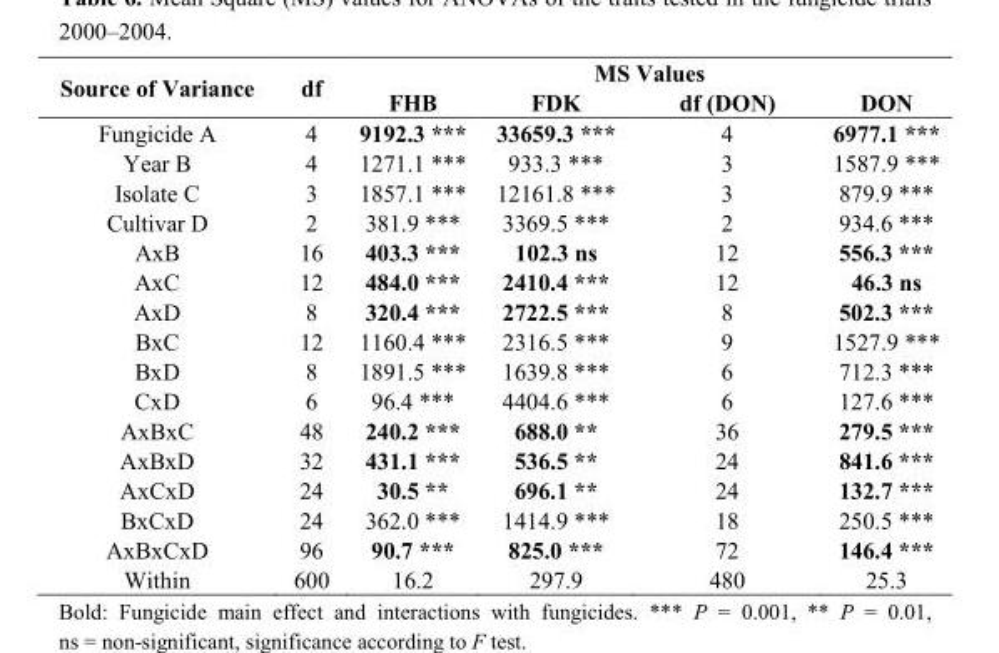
<table><thead><tr><td rowspan="2">Source of Variance</td><td rowspan="2">df</td><td colspan="4">MS Values</td></tr><tr><td>FHB</td><td>FDK</td><td>df (DON)</td><td>DON</td></tr></thead><tbody><tr><td>Fungicide A</td><td>4</td><td>9192.3 ***</td><td>33659.3 ***</td><td>4</td><td>6977.1 ***</td></tr><tr><td>Year B</td><td>4</td><td>1271.1 ***</td><td>933.3 ***</td><td>3</td><td>1587.9 ***</td></tr><tr><td>Isolate C</td><td>3</td><td>1857.1 ***</td><td>12161.8 ***</td><td>3</td><td>879.9 ***</td></tr><tr><td>Cultivar D</td><td>2</td><td>381.9 ***</td><td>3369.5 ***</td><td>2</td><td>934.6 ***</td></tr><tr><td>AxB</td><td>16</td><td>403.3 ***</td><td>102.3 ns</td><td>12</td><td>556.3 ***</td></tr><tr><td>AxC</td><td>12</td><td>484.0 ***</td><td>2410.4 ***</td><td>12</td><td>46.3 ns</td></tr><tr><td>AxD</td><td>8</td><td>320.4 ***</td><td>2722.5 ***</td><td>8</td><td>502.3 ***</td></tr><tr><td>BxC</td><td>12</td><td>1160.4 ***</td><td>2316.5 ***</td><td>9</td><td>1527.9 ***</td></tr><tr><td>BxD</td><td>8</td><td>1891.5 ***</td><td>1639.8 ***</td><td>6</td><td>712.3 ***</td></tr><tr><td>CxD</td><td>6</td><td>96.4 ***</td><td>4404.6 ***</td><td>6</td><td>127.6 ***</td></tr><tr><td>AxBxC</td><td>48</td><td>240.2 ***</td><td>688.0 **</td><td>36</td><td>279.5 ***</td></tr><tr><td>AxBxD</td><td>32</td><td>431.1 ***</td><td>536.5 **</td><td>24</td><td>841.6 ***</td></tr><tr><td>AxCxD</td><td>24</td><td>30.5 **</td><td>696.1 **</td><td>24</td><td>132.7 ***</td></tr><tr><td>BxCxD</td><td>24</td><td>362.0 ***</td><td>1414.9 ***</td><td>18</td><td>250.5 ***</td></tr><tr><td>AxBxCxD</td><td>96</td><td>90.7 ***</td><td>825.0 ***</td><td>72</td><td>146.4 ***</td></tr><tr><td>Within</td><td>600</td><td>16.2</td><td>297.9</td><td>480</td><td>25.3</td></tr></tbody></table>